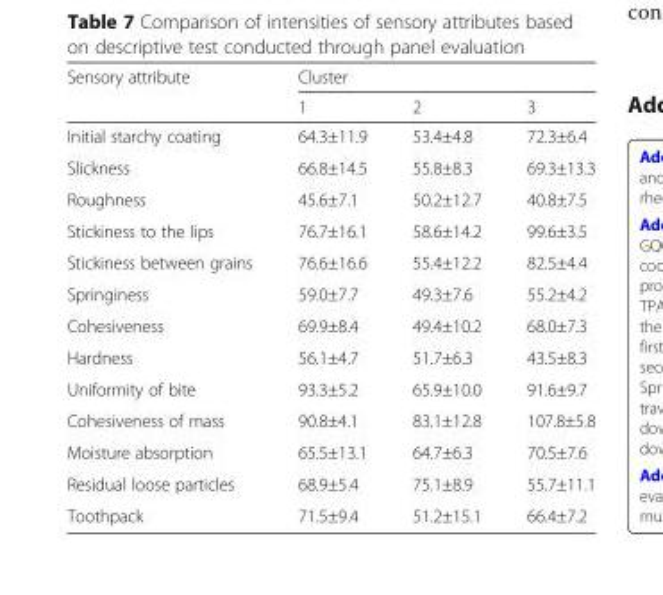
<table><thead><tr><td rowspan="2">Sensory attribute</td><td colspan="3">Cluster</td></tr><tr><td>1</td><td>2</td><td>3</td></tr></thead><tbody><tr><td>Initial starchy coating</td><td>64.3±11.9</td><td>53.4±4.8</td><td>72.3±6.4</td></tr><tr><td>Slickness</td><td>66.8±14.5</td><td>55.8±8.3</td><td>69.3±13.3</td></tr><tr><td>Roughness</td><td>45.6±7.1</td><td>50.2±12.7</td><td>40.8±7.5</td></tr><tr><td>Stickiness to the lips</td><td>76.7±16.1</td><td>58.6±14.2</td><td>99.6±3.5</td></tr><tr><td>Stickiness between grains</td><td>76.6±16.6</td><td>55.4±12.2</td><td>82.5±4.4</td></tr><tr><td>Springiness</td><td>59.0±7.7</td><td>49.3±7.6</td><td>55.2±4.2</td></tr><tr><td>Cohesiveness</td><td>69.9±8.4</td><td>49.4±10.2</td><td>68.0±7.3</td></tr><tr><td>Hardness</td><td>56.1±4.7</td><td>51.7±6.3</td><td>43.5±8.3</td></tr><tr><td>Uniformity of bite</td><td>93.3±5.2</td><td>65.9±10.0</td><td>91.6±9.7</td></tr><tr><td>Cohesiveness of mass</td><td>90.8±4.1</td><td>83.1±12.8</td><td>107.8±5.8</td></tr><tr><td>Moisture absorption</td><td>65.5±13.1</td><td>64.7±6.3</td><td>70.5±7.6</td></tr><tr><td>Residual loose particles</td><td>68.9±5.4</td><td>75.1±8.9</td><td>55.7±11.1</td></tr><tr><td>Toothpack</td><td>71.5±9.4</td><td>51.2±15.1</td><td>66.4±7.2</td></tr></tbody></table>